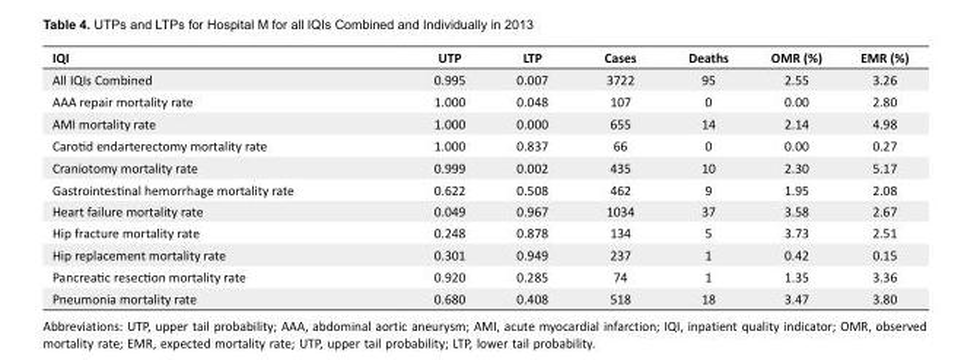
<table><tbody><tr><td>IQI</td><td>UTP</td><td>LTP</td><td>Cases</td><td>Deaths</td><td>OMR (%)</td><td>EMR (%)</td></tr><tr><td>All IQIs Combined</td><td>0.995</td><td>0.007</td><td>3722</td><td>95</td><td>2.55</td><td>3.26</td></tr><tr><td>AAA repair mortality rate</td><td>1.000</td><td>0.048</td><td>107</td><td>0</td><td>0.00</td><td>2.80</td></tr><tr><td>AMI mortality rate</td><td>1.000</td><td>0.000</td><td>655</td><td>14</td><td>2.14</td><td>4.98</td></tr><tr><td>Carotid endarterectomy mortality rate</td><td>1.000</td><td>0.837</td><td>66</td><td>0</td><td>0.00</td><td>0.27</td></tr><tr><td>Craniotomy mortality rate</td><td>0.999</td><td>0.002</td><td>435</td><td>10</td><td>2.30</td><td>5.17</td></tr><tr><td>Gastrointestinal hemorrhage mortality rate</td><td>0.622</td><td>0.508</td><td>462</td><td>9</td><td>1.95</td><td>2.08</td></tr><tr><td>Heart failure mortality rate</td><td>0.049</td><td>0.967</td><td>1034</td><td>37</td><td>3.58</td><td>2.67</td></tr><tr><td>Hip fracture mortality rate</td><td>0.248</td><td>0.878</td><td>134</td><td>5</td><td>3.73</td><td>2.51</td></tr><tr><td>Hip replacement mortality rate</td><td>0.301</td><td>0.949</td><td>237</td><td>1</td><td>0.42</td><td>0.15</td></tr><tr><td>Pancreatic resection mortality rate</td><td>0.920</td><td>0.285</td><td>74</td><td>1</td><td>1.35</td><td>3.36</td></tr><tr><td>Pneumonia mortality rate</td><td>0.680</td><td>0.408</td><td>518</td><td>18</td><td>3.47</td><td>3.80</td></tr></tbody></table>